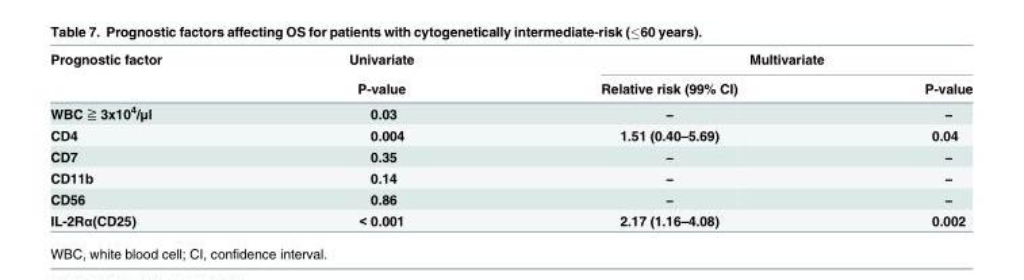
<table><thead><tr><td rowspan="2">Prognostic factor</td><td rowspan="2">Univariate P-value</td><td colspan="2">Multivariate</td></tr><tr><td>Relative risk (99% CI)</td><td>P-value</td></tr></thead><tbody><tr><td>WBC ≧ 3x10<sup>4</sup>/μl</td><td>0.03</td><td>−</td><td>−</td></tr><tr><td>CD4</td><td>0.004</td><td>1.51 (0.40–5.69)</td><td>0.04</td></tr><tr><td>CD7</td><td>0.35</td><td>−</td><td>−</td></tr><tr><td>CD11b</td><td>0.14</td><td>−</td><td>−</td></tr><tr><td>CD56</td><td>0.86</td><td>−</td><td>−</td></tr><tr><td>IL-2Rα(CD25)</td><td>&lt; 0.001</td><td>2.17 (1.16–4.08)</td><td>0.002</td></tr></tbody></table>